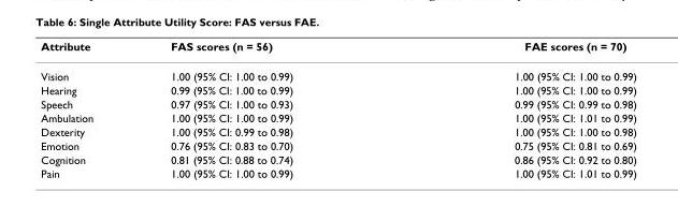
<table><thead><tr><td>Attribute</td><td>FAS scores (n = 56)</td><td>FAE scores (n = 70)</td></tr></thead><tbody><tr><td>Vision</td><td>1.00 (95% CI: 1.00 to 0.99)</td><td>1.00 (95% CI: 1.00 to 0.99)</td></tr><tr><td>Hearing</td><td>0.99 (95% CI: 1.00 to 0.99)</td><td>1.00 (95% CI: 1.00 to 0.99)</td></tr><tr><td>Speech</td><td>0.97 (95% CI: 1.00 to 0.93)</td><td>0.99 (95% CI: 0.99 to 0.98)</td></tr><tr><td>Ambulation</td><td>1.00 (95% CI: 1.00 to 0.99)</td><td>1.00 (95% CI: 1.01 to 0.99)</td></tr><tr><td>Dexterity</td><td>1.00 (95% CI: 0.99 to 0.98)</td><td>1.00 (95% CI: 1.00 to 0.98)</td></tr><tr><td>Emotion</td><td>0.76 (95% CI: 0.83 to 0.70)</td><td>0.75 (95% CI: 0.81 to 0.69)</td></tr><tr><td>Cognition</td><td>0.81 (95% CI: 0.88 to 0.74)</td><td>0.86 (95% CI: 0.92 to 0.80)</td></tr><tr><td>Pain</td><td>1.00 (95% CI: 1.00 to 0.99)</td><td>1.00 (95% CI: 1.01 to 0.99)</td></tr></tbody></table>